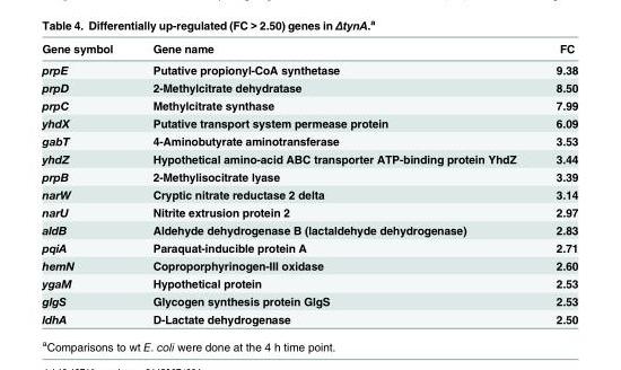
<table><thead><tr><td>Gene symbol</td><td>Gene name</td><td>FC</td></tr></thead><tbody><tr><td>prpE</td><td>Putative propionyl-CoA synthetase</td><td>9.38</td></tr><tr><td>prpD</td><td>2-Methylcitrate dehydratase</td><td>8.50</td></tr><tr><td>prpC</td><td>Methylcitrate synthase</td><td>7.99</td></tr><tr><td>yhdX</td><td>Putative transport system permease protein</td><td>6.09</td></tr><tr><td>gabT</td><td>4-Aminobutyrate aminotransferase</td><td>3.53</td></tr><tr><td>yhdZ</td><td>Hypothetical amino-acid ABC transporter ATP-binding protein YhdZ</td><td>3.44</td></tr><tr><td>prpB</td><td>2-Methylisocitrate lyase</td><td>3.39</td></tr><tr><td>narW</td><td>Cryptic nitrate reductase 2 delta</td><td>3.14</td></tr><tr><td>narU</td><td>Nitrite extrusion protein 2</td><td>2.97</td></tr><tr><td>aldB</td><td>Aldehyde dehydrogenase B (lactaldehyde dehydrogenase)</td><td>2.83</td></tr><tr><td>pqiA</td><td>Paraquat-inducible protein A</td><td>2.71</td></tr><tr><td>hemN</td><td>Coproporphyrinogen-III oxidase</td><td>2.60</td></tr><tr><td>ygaM</td><td>Hypothetical protein</td><td>2.53</td></tr><tr><td>glgS</td><td>Glycogen synthesis protein GlgS</td><td>2.53</td></tr><tr><td>ldhA</td><td>D-Lactate dehydrogenase</td><td>2.50</td></tr></tbody></table>